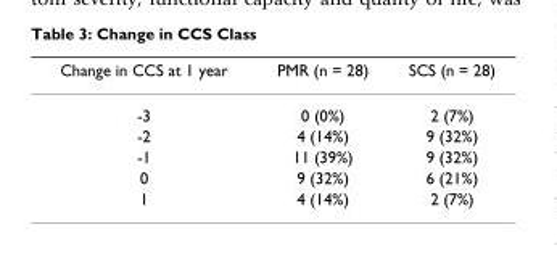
<table><thead><tr><td>Change in CCS at 1 year</td><td>PMR (n = 28)</td><td>SCS (n = 28)</td></tr></thead><tbody><tr><td>-3</td><td>0 (0%)</td><td>2 (7%)</td></tr><tr><td>-2</td><td>4 (14%)</td><td>9 (32%)</td></tr><tr><td>-1</td><td>11 (39%)</td><td>9 (32%)</td></tr><tr><td>0</td><td>9 (32%)</td><td>6 (21%)</td></tr><tr><td>1</td><td>4 (14%)</td><td>2 (7%)</td></tr></tbody></table>